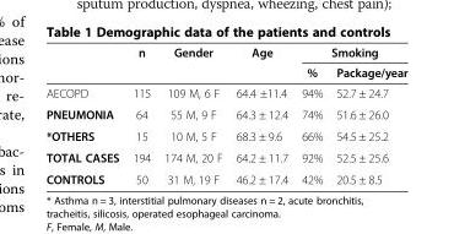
<table><thead><tr><td rowspan="2"></td><td rowspan="2">n</td><td rowspan="2">Gender</td><td rowspan="2">Age</td><td colspan="2">Smoking</td></tr><tr><td>%</td><td>Package/year</td></tr></thead><tbody><tr><td>AECOPD</td><td>115</td><td>109 M, 6 F</td><td>64.4 ±11.4</td><td>94%</td><td>52.7 ± 24.7</td></tr><tr><td>PNEUMONIA</td><td>64</td><td>55 M, 9 F</td><td>64.3 ± 12.4</td><td>74%</td><td>51.6 ± 26.0</td></tr><tr><td>*OTHERS</td><td>15</td><td>10 M, 5 F</td><td>68.3 ± 9.6</td><td>66%</td><td>54.5 ± 25.2</td></tr><tr><td>TOTAL CASES</td><td>194</td><td>174 M, 20 F</td><td>64.2 ± 11.7</td><td>92%</td><td>52.5 ± 25.6</td></tr><tr><td>CONTROLS</td><td>50</td><td>31 M, 19 F</td><td>46.2 ± 17.4</td><td>42%</td><td>20.5 ± 8.5</td></tr></tbody></table>